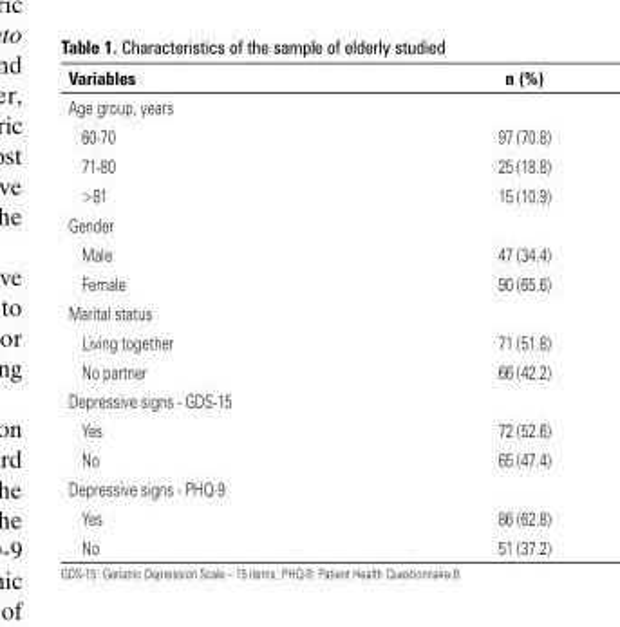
<table><thead><tr><td>Variables</td><td>n (%)</td></tr></thead><tbody><tr><td colspan="2">Age group, years</td></tr><tr><td>60-70</td><td>97 (70.8)</td></tr><tr><td>71-80</td><td>25 (18.8)</td></tr><tr><td>&gt;81</td><td>15 (10.9)</td></tr><tr><td colspan="2">Gender</td></tr><tr><td>Male</td><td>47 (34.4)</td></tr><tr><td>Female</td><td>90 (65.6)</td></tr><tr><td colspan="2">Marital status</td></tr><tr><td>Living together</td><td>71 (51.8)</td></tr><tr><td>No partner</td><td>66 (42.2)</td></tr><tr><td colspan="2">Depressive signs - GDS-15</td></tr><tr><td>Yes</td><td>72 (52.6)</td></tr><tr><td>No</td><td>65 (47.4)</td></tr><tr><td colspan="2">Depressive signs - PHQ-9</td></tr><tr><td>Yes</td><td>86 (62.8)</td></tr><tr><td>No</td><td>51 (37.2)</td></tr></tbody></table>